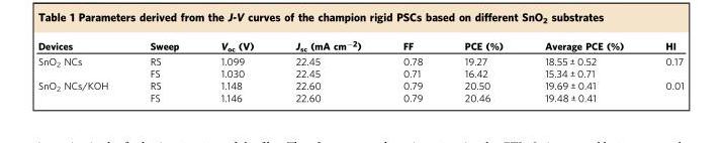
<table><thead><tr><td>Devices</td><td>Sweep</td><td>V<sub>oc</sub> (V)</td><td>J<sub>sc</sub> (mA cm<sup>−2</sup>)</td><td>FF</td><td>PCE (%)</td><td>Average PCE (%)</td><td>HI</td></tr></thead><tbody><tr><td rowspan="2">SnO<sub>2</sub> NCs</td><td>RS</td><td>1.099</td><td>22.45</td><td>0.78</td><td>19.27</td><td>18.55 ± 0.52</td><td rowspan="2">0.17</td></tr><tr><td>FS</td><td>1.030</td><td>22.45</td><td>0.71</td><td>16.42</td><td>15.34 ± 0.71</td></tr><tr><td rowspan="2">SnO<sub>2</sub> NCs/KOH</td><td>RS</td><td>1.148</td><td>22.60</td><td>0.79</td><td>20.50</td><td>19.69 ± 0.41</td><td rowspan="2">0.01</td></tr><tr><td>FS</td><td>1.146</td><td>22.60</td><td>0.79</td><td>20.46</td><td>19.48 ± 0.41</td></tr></tbody></table>